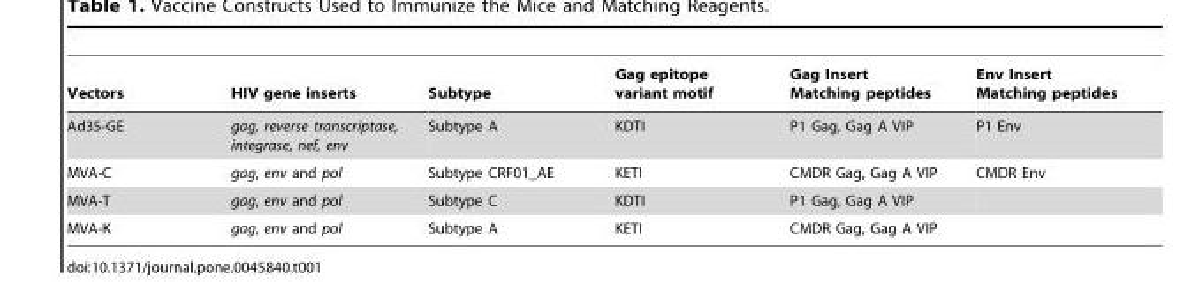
<table><thead><tr><td>Vectors</td><td>HIV gene inserts</td><td>Subtype</td><td>Gag epitope variant motif</td><td>Gag Insert Matching peptides</td><td>Env Insert Matching peptides</td></tr></thead><tbody><tr><td>Ad35-GE</td><td>gag, reverse transcriptase, integrase, nef, env</td><td>Subtype A</td><td>KDTI</td><td>P1 Gag, Gag A VIP</td><td>P1 Env</td></tr><tr><td>MVA-C</td><td>gag, env and pol</td><td>Subtype CRF01_AE</td><td>KETI</td><td>CMDR Gag, Gag A VIP</td><td>CMDR Env</td></tr><tr><td>MVA-T</td><td>gag, env and pol</td><td>Subtype C</td><td>KDTI</td><td>P1 Gag, Gag A VIP</td><td></td></tr><tr><td>MVA-K</td><td>gag, env and pol</td><td>Subtype A</td><td>KETI</td><td>CMDR Gag, Gag A VIP</td><td></td></tr></tbody></table>